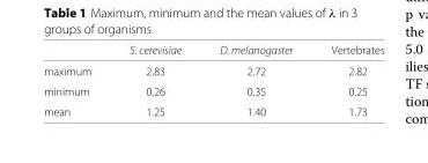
<table><thead><tr><td></td><td>S. cerevisiae</td><td>D. melanogaster</td><td>Vertebrates</td></tr></thead><tbody><tr><td>maximum</td><td>2.83</td><td>2.72</td><td>2.82</td></tr><tr><td>minimum</td><td>0.26</td><td>0.35</td><td>0.25</td></tr><tr><td>mean</td><td>1.25</td><td>1.40</td><td>1.73</td></tr></tbody></table>